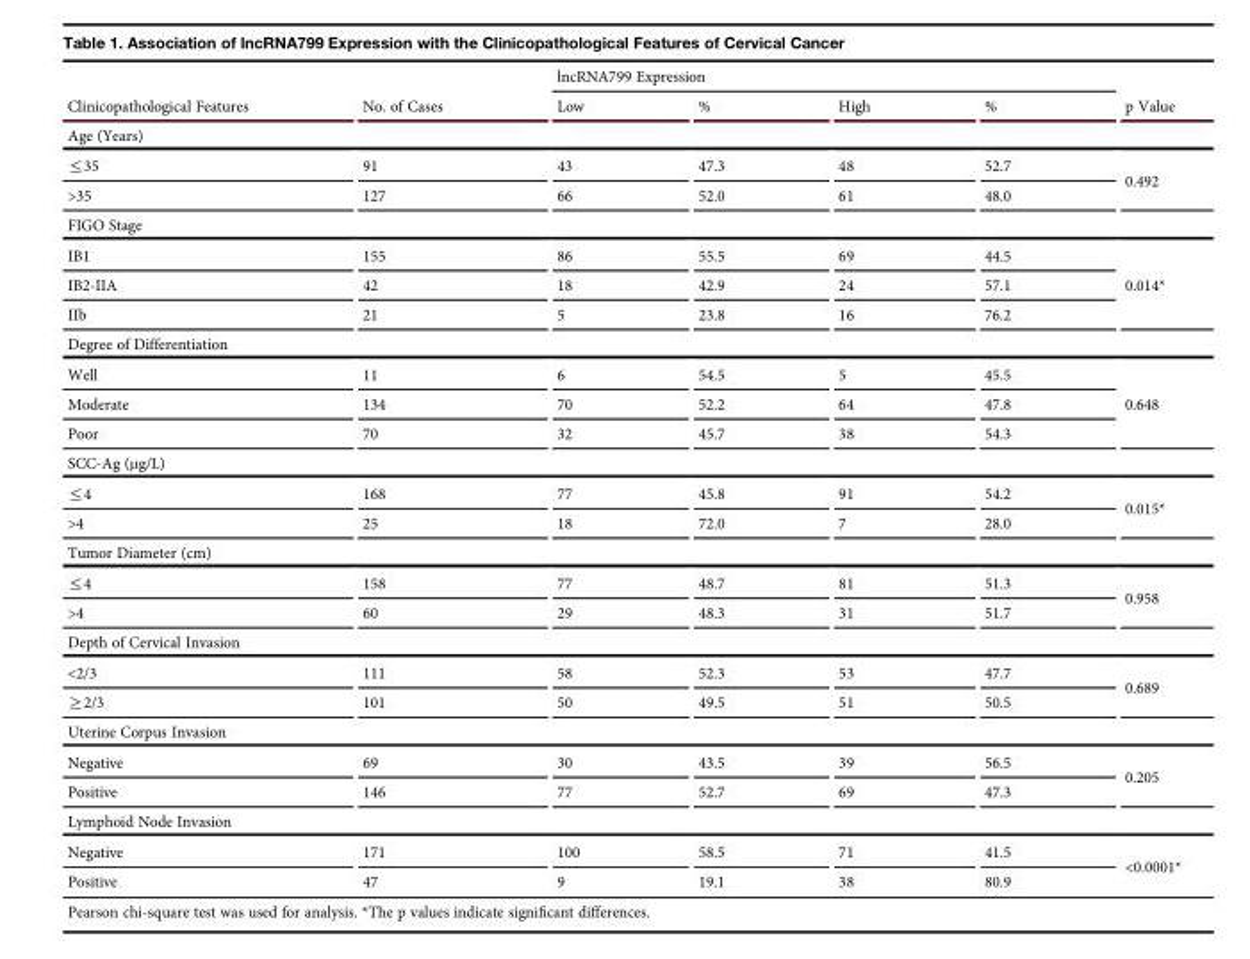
<table><thead><tr><td rowspan="2">Clinicopathological Features</td><td rowspan="2">No. of Cases</td><td colspan="4">lncRNA799 Expression</td><td rowspan="2">p Value</td></tr><tr><td>Low</td><td>%</td><td>High</td><td>%</td></tr></thead><tbody><tr><td colspan="7">Age (Years)</td></tr><tr><td>≤35</td><td>91</td><td>43</td><td>47.3</td><td>48</td><td>52.7</td><td rowspan="2">0.492</td></tr><tr><td>&gt;35</td><td>127</td><td>66</td><td>52.0</td><td>61</td><td>48.0</td></tr><tr><td colspan="7">FIGO Stage</td></tr><tr><td>IB1</td><td>155</td><td>86</td><td>55.5</td><td>69</td><td>44.5</td><td rowspan="3">0.014*</td></tr><tr><td>IB2-IIA</td><td>42</td><td>18</td><td>42.9</td><td>24</td><td>57.1</td></tr><tr><td>IIb</td><td>21</td><td>5</td><td>23.8</td><td>16</td><td>76.2</td></tr><tr><td colspan="7">Degree of Differentiation</td></tr><tr><td>Well</td><td>11</td><td>6</td><td>54.5</td><td>5</td><td>45.5</td><td rowspan="3">0.648</td></tr><tr><td>Moderate</td><td>134</td><td>70</td><td>52.2</td><td>64</td><td>47.8</td></tr><tr><td>Poor</td><td>70</td><td>32</td><td>45.7</td><td>38</td><td>54.3</td></tr><tr><td colspan="7">SCC-Ag (μg/L)</td></tr><tr><td>≤4</td><td>168</td><td>77</td><td>45.8</td><td>91</td><td>54.2</td><td rowspan="2">0.015*</td></tr><tr><td>&gt;4</td><td>25</td><td>18</td><td>72.0</td><td>7</td><td>28.0</td></tr><tr><td colspan="7">Tumor Diameter (cm)</td></tr><tr><td>≤4</td><td>158</td><td>77</td><td>48.7</td><td>81</td><td>51.3</td><td rowspan="2">0.958</td></tr><tr><td>&gt;4</td><td>60</td><td>29</td><td>48.3</td><td>31</td><td>51.7</td></tr><tr><td colspan="7">Depth of Cervical Invasion</td></tr><tr><td>&lt;2/3</td><td>111</td><td>58</td><td>52.3</td><td>53</td><td>47.7</td><td rowspan="2">0.689</td></tr><tr><td>≥2/3</td><td>101</td><td>50</td><td>49.5</td><td>51</td><td>50.5</td></tr><tr><td colspan="7">Uterine Corpus Invasion</td></tr><tr><td>Negative</td><td>69</td><td>30</td><td>43.5</td><td>39</td><td>56.5</td><td rowspan="2">0.205</td></tr><tr><td>Positive</td><td>146</td><td>77</td><td>52.7</td><td>69</td><td>47.3</td></tr><tr><td colspan="7">Lymphoid Node Invasion</td></tr><tr><td>Negative</td><td>171</td><td>100</td><td>58.5</td><td>71</td><td>41.5</td><td rowspan="2">&lt;0.0001*</td></tr><tr><td>Positive</td><td>47</td><td>9</td><td>19.1</td><td>38</td><td>80.9</td></tr></tbody></table>